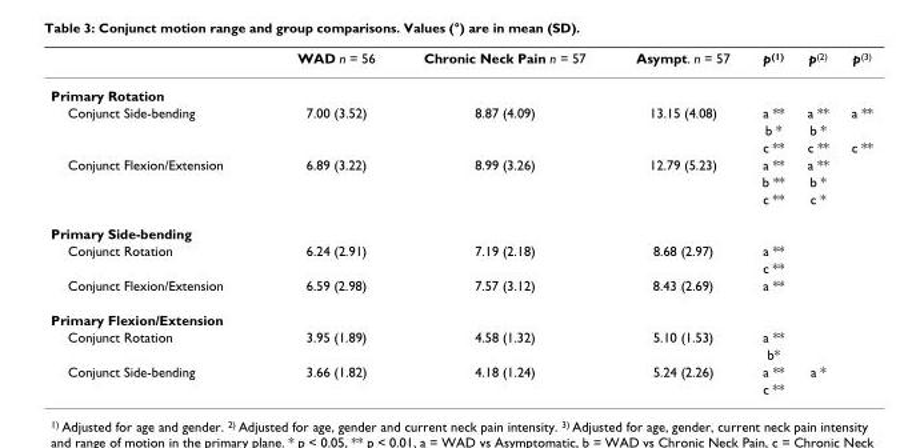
<table><thead><tr><td></td><td>WAD n = 56</td><td>Chronic Neck Pain n = 57</td><td>Asympt. n = 57</td><td>p<sup>(1)</sup></td><td>p<sup>(2)</sup></td><td>p<sup>(3)</sup></td></tr></thead><tbody><tr><td colspan="7">Primary Rotation</td></tr><tr><td rowspan="3">Conjunct Side-bending</td><td>7.00 (3.52)</td><td>8.87 (4.09)</td><td>13.15 (4.08)</td><td>a **</td><td>a **</td><td>a **</td></tr><tr><td></td><td></td><td></td><td>b *</td><td>b *</td><td></td></tr><tr><td></td><td></td><td></td><td>c **</td><td>c **</td><td>c **</td></tr><tr><td rowspan="3">Conjunct Flexion/Extension</td><td>6.89 (3.22)</td><td>8.99 (3.26)</td><td>12.79 (5.23)</td><td>a **</td><td>a **</td><td></td></tr><tr><td></td><td></td><td></td><td>b **</td><td>b *</td><td></td></tr><tr><td></td><td></td><td></td><td>c **</td><td>c *</td><td></td></tr><tr><td colspan="7">Primary Side-bending</td></tr><tr><td rowspan="2">Conjunct Rotation</td><td>6.24 (2.91)</td><td>7.19 (2.18)</td><td>8.68 (2.97)</td><td>a **</td><td></td><td></td></tr><tr><td></td><td></td><td></td><td>c **</td><td></td><td></td></tr><tr><td>Conjunct Flexion/Extension</td><td>6.59 (2.98)</td><td>7.57 (3.12)</td><td>8.43 (2.69)</td><td>a **</td><td></td><td></td></tr><tr><td colspan="7">Primary Flexion/Extension</td></tr><tr><td rowspan="2">Conjunct Rotation</td><td>3.95 (1.89)</td><td>4.58 (1.32)</td><td>5.10 (1.53)</td><td>a **</td><td></td><td></td></tr><tr><td></td><td></td><td></td><td>b*</td><td></td><td></td></tr><tr><td rowspan="2">Conjunct Side-bending</td><td>3.66 (1.82)</td><td>4.18 (1.24)</td><td>5.24 (2.26)</td><td>a **</td><td>a *</td><td></td></tr><tr><td></td><td></td><td></td><td>c **</td><td></td><td></td></tr></tbody></table>